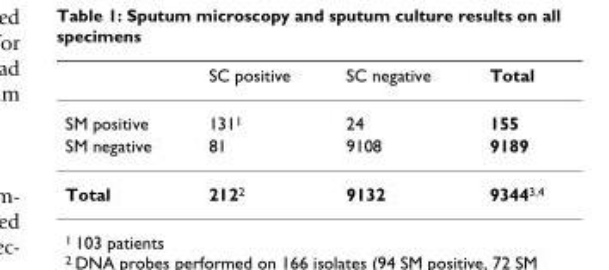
<table><thead><tr><td></td><td>SC positive</td><td>SC negative</td><td>Total</td></tr></thead><tbody><tr><td>SM positive</td><td>131<sup>1</sup></td><td>24</td><td>155</td></tr><tr><td>SM negative</td><td>81</td><td>9108</td><td>9189</td></tr><tr><td>Total</td><td>212<sup>2</sup></td><td>9132</td><td>9344<sup>3,4</sup></td></tr></tbody></table>